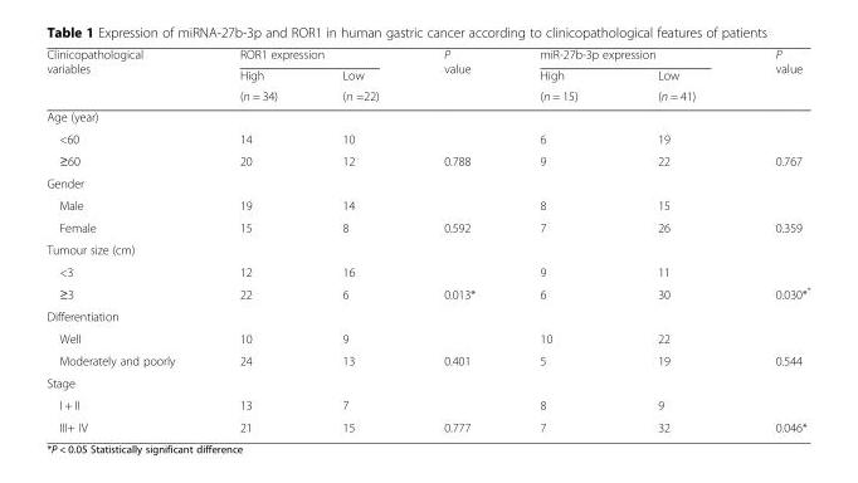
<table><thead><tr><td rowspan="3">Clinicopathological variables</td><td colspan="2">ROR1 expression</td><td rowspan="3">P value</td><td colspan="2">miR-27b-3p expression</td><td rowspan="3">P value</td></tr><tr><td rowspan="2">High (n = 34)</td><td rowspan="2">Low (n =22)</td><td rowspan="2">High (n = 15)</td><td rowspan="2">Low (n = 41)</td></tr><tr></tr></thead><tbody><tr><td colspan="7">Age (year)</td></tr><tr><td>&lt;60</td><td>14</td><td>10</td><td></td><td>6</td><td colspan="2">19</td></tr><tr><td>≥60</td><td>20</td><td>12</td><td>0.788</td><td>9</td><td>22</td><td>0.767</td></tr><tr><td colspan="7">Gender</td></tr><tr><td>Male</td><td>19</td><td>14</td><td></td><td>8</td><td>15</td><td></td></tr><tr><td>Female</td><td>15</td><td>8</td><td>0.592</td><td>7</td><td>26</td><td>0.359</td></tr><tr><td colspan="7">Tumour size (cm)</td></tr><tr><td>&lt;3</td><td>12</td><td>16</td><td></td><td>9</td><td>11</td><td></td></tr><tr><td>≥3</td><td>22</td><td>6</td><td>0.013*</td><td>6</td><td>30</td><td>0.030**</td></tr><tr><td colspan="7">Differentiation</td></tr><tr><td>Well</td><td>10</td><td>9</td><td></td><td>10</td><td>22</td><td></td></tr><tr><td>Moderately and poorly</td><td>24</td><td>13</td><td>0.401</td><td>5</td><td>19</td><td>0.544</td></tr><tr><td colspan="7">Stage</td></tr><tr><td>I + II</td><td>13</td><td>7</td><td></td><td>8</td><td>9</td><td></td></tr><tr><td>III+ IV</td><td>21</td><td>15</td><td>0.777</td><td>7</td><td>32</td><td>0.046*</td></tr></tbody></table>